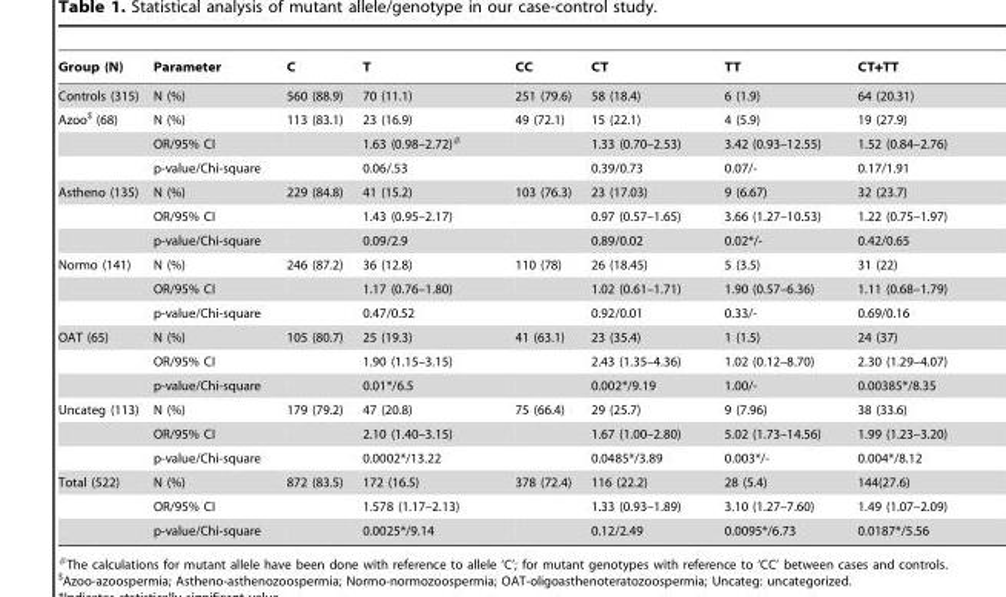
<table><thead><tr><td>Group (N)</td><td>Parameter</td><td>C</td><td>T</td><td>CC</td><td>CT</td><td>TT</td><td>CT+TT</td></tr></thead><tbody><tr><td>Controls (315)</td><td>N (%)</td><td>560 (88.9)</td><td>70 (11.1)</td><td>251 (79.6)</td><td>58 (18.4)</td><td>6 (1.9)</td><td>64 (20.31)</td></tr><tr><td rowspan="3">Azoo$ (68)</td><td>N (%)</td><td>113 (83.1)</td><td>23 (16.9)</td><td>49 (72.1)</td><td>15 (22.1)</td><td>4 (5.9)</td><td>19 (27.9)</td></tr><tr><td>OR/95% CI</td><td></td><td>1.63 (0.98–2.72)#</td><td></td><td>1.33 (0.70–2.53)</td><td>3.42 (0.93–12.55)</td><td>1.52 (0.84–2.76)</td></tr><tr><td>p-value/Chi-square</td><td></td><td>0.06/.53</td><td></td><td>0.39/0.73</td><td>0.07/-</td><td>0.17/1.91</td></tr><tr><td rowspan="3">Astheno (135)</td><td>N (%)</td><td>229 (84.8)</td><td>41 (15.2)</td><td>103 (76.3)</td><td>23 (17.03)</td><td>9 (6.67)</td><td>32 (23.7)</td></tr><tr><td>OR/95% CI</td><td></td><td>1.43 (0.95–2.17)</td><td></td><td>0.97 (0.57–1.65)</td><td>3.66 (1.27–10.53)</td><td>1.22 (0.75–1.97)</td></tr><tr><td>p-value/Chi-square</td><td></td><td>0.09/2.9</td><td></td><td>0.89/0.02</td><td>0.02*/-</td><td>0.42/0.65</td></tr><tr><td rowspan="3">Normo (141)</td><td>N (%)</td><td>246 (87.2)</td><td>36 (12.8)</td><td>110 (78)</td><td>26 (18.45)</td><td>5 (3.5)</td><td>31 (22)</td></tr><tr><td>OR/95% CI</td><td></td><td>1.17 (0.76–1.80)</td><td></td><td>1.02 (0.61–1.71)</td><td>1.90 (0.57–6.36)</td><td>1.11 (0.68–1.79)</td></tr><tr><td>p-value/Chi-square</td><td></td><td>0.47/0.52</td><td></td><td>0.92/0.01</td><td>0.33/-</td><td>0.69/0.16</td></tr><tr><td rowspan="3">OAT (65)</td><td>N (%)</td><td>105 (80.7)</td><td>25 (19.3)</td><td>41 (63.1)</td><td>23 (35.4)</td><td>1 (1.5)</td><td>24 (37)</td></tr><tr><td>OR/95% CI</td><td></td><td>1.90 (1.15–3.15)</td><td></td><td>2.43 (1.35–4.36)</td><td>1.02 (0.12–8.70)</td><td>2.30 (1.29–4.07)</td></tr><tr><td>p-value/Chi-square</td><td></td><td>0.01*/6.5</td><td></td><td>0.002*/9.19</td><td>1.00/-</td><td>0.00385*/8.35</td></tr><tr><td rowspan="3">Uncateg (113)</td><td>N (%)</td><td>179 (79.2)</td><td>47 (20.8)</td><td>75 (66.4)</td><td>29 (25.7)</td><td>9 (7.96)</td><td>38 (33.6)</td></tr><tr><td>OR/95% CI</td><td></td><td>2.10 (1.40–3.15)</td><td></td><td>1.67 (1.00–2.80)</td><td>5.02 (1.73–14.56)</td><td>1.99 (1.23–3.20)</td></tr><tr><td>p-value/Chi-square</td><td></td><td>0.0002*/13.22</td><td></td><td>0.0485*/3.89</td><td>0.003*/-</td><td>0.004*/8.12</td></tr><tr><td rowspan="3">Total (522)</td><td>N (%)</td><td>872 (83.5)</td><td>172 (16.5)</td><td>378 (72.4)</td><td>116 (22.2)</td><td>28 (5.4)</td><td>144(27.6)</td></tr><tr><td>OR/95% CI</td><td></td><td>1.578 (1.17–2.13)</td><td></td><td>1.33 (0.93–1.89)</td><td>3.10 (1.27–7.60)</td><td>1.49 (1.07–2.09)</td></tr><tr><td>p-value/Chi-square</td><td></td><td>0.0025*/9.14</td><td></td><td>0.12/2.49</td><td>0.0095*/6.73</td><td>0.0187*/5.56</td></tr></tbody></table>